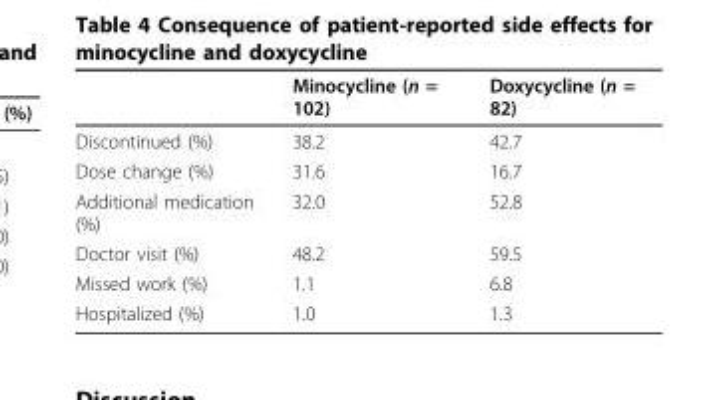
<table><thead><tr><td></td><td>Minocycline (n = 102)</td><td>Doxycycline (n = 82)</td></tr></thead><tbody><tr><td>Discontinued (%)</td><td>38.2</td><td>42.7</td></tr><tr><td>Dose change (%)</td><td>31.6</td><td>16.7</td></tr><tr><td>Additional medication (%)</td><td>32.0</td><td>52.8</td></tr><tr><td>Doctor visit (%)</td><td>48.2</td><td>59.5</td></tr><tr><td>Missed work (%)</td><td>1.1</td><td>6.8</td></tr><tr><td>Hospitalized (%)</td><td>1.0</td><td>1.3</td></tr></tbody></table>